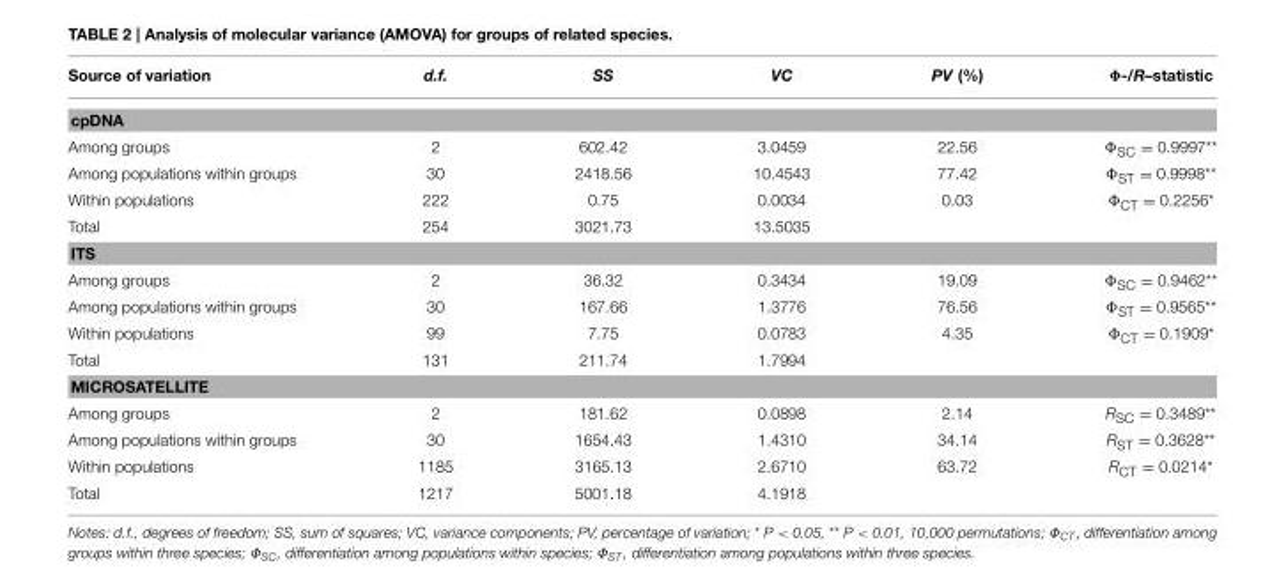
<table><thead><tr><td>Source of variation</td><td>d.f.</td><td>SS</td><td>VC</td><td>PV (%)</td><td>Φ-/R–statistic</td></tr></thead><tbody><tr><td colspan="6">cpDNA</td></tr><tr><td>Among groups</td><td>2</td><td>602.42</td><td>3.0459</td><td>22.56</td><td>Φ<sub>SC</sub> = 0.9997**</td></tr><tr><td>Among populations within groups</td><td>30</td><td>2418.56</td><td>10.4543</td><td>77.42</td><td>Φ<sub>ST</sub> = 0.9998**</td></tr><tr><td>Within populations</td><td>222</td><td>0.75</td><td>0.0034</td><td>0.03</td><td>Φ<sub>CT</sub> = 0.2256*</td></tr><tr><td>Total</td><td>254</td><td>3021.73</td><td>13.5035</td><td></td><td></td></tr><tr><td colspan="6">ITS</td></tr><tr><td>Among groups</td><td>2</td><td>36.32</td><td>0.3434</td><td>19.09</td><td>Φ<sub>SC</sub> = 0.9462**</td></tr><tr><td>Among populations within groups</td><td>30</td><td>167.66</td><td>1.3776</td><td>76.56</td><td>Φ<sub>ST</sub> = 0.9565**</td></tr><tr><td>Within populations</td><td>99</td><td>7.75</td><td>0.0783</td><td>4.35</td><td>Φ<sub>CT</sub> = 0.1909*</td></tr><tr><td>Total</td><td>131</td><td>211.74</td><td>1.7994</td><td></td><td></td></tr><tr><td colspan="6">MICROSATELLITE</td></tr><tr><td>Among groups</td><td>2</td><td>181.62</td><td>0.0898</td><td>2.14</td><td>R<sub>SC</sub> = 0.3489**</td></tr><tr><td>Among populations within groups</td><td>30</td><td>1654.43</td><td>1.4310</td><td>34.14</td><td>R<sub>ST</sub> = 0.3628**</td></tr><tr><td>Within populations</td><td>1185</td><td>3165.13</td><td>2.6710</td><td>63.72</td><td>R<sub>CT</sub> = 0.0214*</td></tr><tr><td>Total</td><td>1217</td><td>5001.18</td><td>4.1918</td><td></td><td></td></tr></tbody></table>